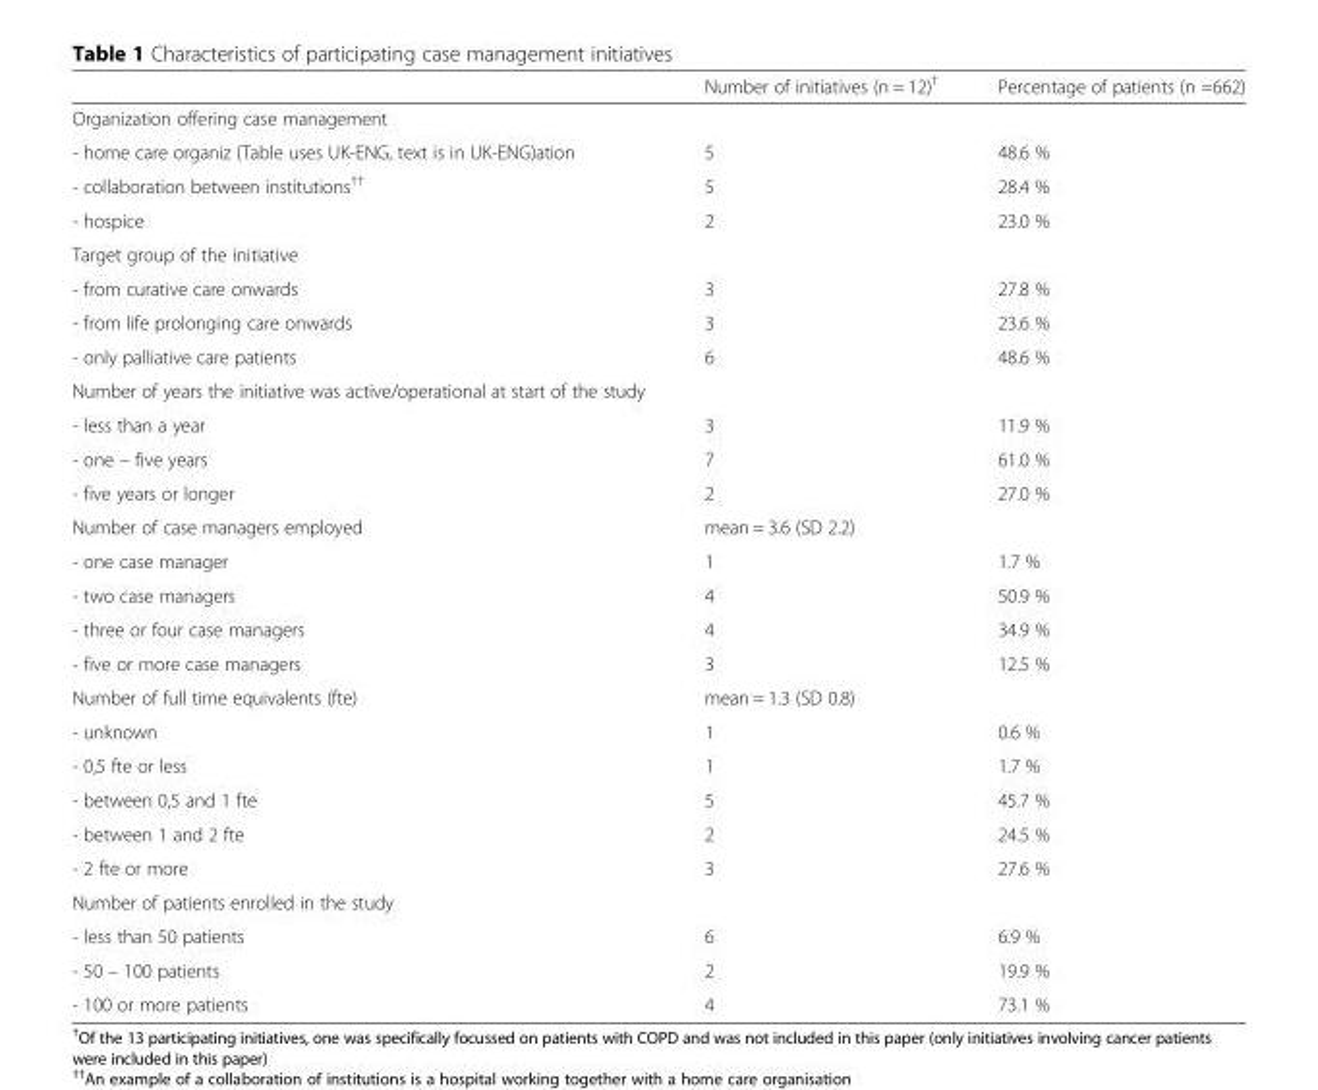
<table><thead><tr><td></td><td>Number of initiatives (n = 12)<sup>†</sup></td><td>Percentage of patients (n =662)</td></tr></thead><tbody><tr><td colspan="3">Organization offering case management</td></tr><tr><td>- home care organiz (Table uses UK-ENG, text is in UK-ENG)ation</td><td>5</td><td>48.6 %</td></tr><tr><td>- collaboration between institutions<sup>††</sup></td><td>5</td><td>28.4 %</td></tr><tr><td>- hospice</td><td>2</td><td>23.0 %</td></tr><tr><td colspan="3">Target group of the initiative</td></tr><tr><td>- from curative care onwards</td><td>3</td><td>27.8 %</td></tr><tr><td>- from life prolonging care onwards</td><td>3</td><td>23.6 %</td></tr><tr><td>- only palliative care patients</td><td>6</td><td>48.6 %</td></tr><tr><td colspan="3">Number of years the initiative was active/operational at start of the study</td></tr><tr><td>- less than a year</td><td>3</td><td>11.9 %</td></tr><tr><td>- one – five years</td><td>7</td><td>61.0 %</td></tr><tr><td>- five years or longer</td><td>2</td><td>27.0 %</td></tr><tr><td>Number of case managers employed</td><td>mean = 3.6 (SD 2.2)</td><td></td></tr><tr><td>- one case manager</td><td>1</td><td>1.7 %</td></tr><tr><td>- two case managers</td><td>4</td><td>50.9 %</td></tr><tr><td>- three or four case managers</td><td>4</td><td>34.9 %</td></tr><tr><td>- five or more case managers</td><td>3</td><td>12.5 %</td></tr><tr><td>Number of full time equivalents (fte)</td><td>mean = 1.3 (SD 0.8)</td><td></td></tr><tr><td>- unknown</td><td>1</td><td>0.6 %</td></tr><tr><td>- 0,5 fte or less</td><td>1</td><td>1.7 %</td></tr><tr><td>- between 0,5 and 1 fte</td><td>5</td><td>45.7 %</td></tr><tr><td>- between 1 and 2 fte</td><td>2</td><td>24.5 %</td></tr><tr><td>- 2 fte or more</td><td>3</td><td>27.6 %</td></tr><tr><td colspan="3">Number of patients enrolled in the study</td></tr><tr><td>- less than 50 patients</td><td>6</td><td>6.9 %</td></tr><tr><td>- 50 – 100 patients</td><td>2</td><td>19.9 %</td></tr><tr><td>- 100 or more patients</td><td>4</td><td>73.1 %</td></tr></tbody></table>